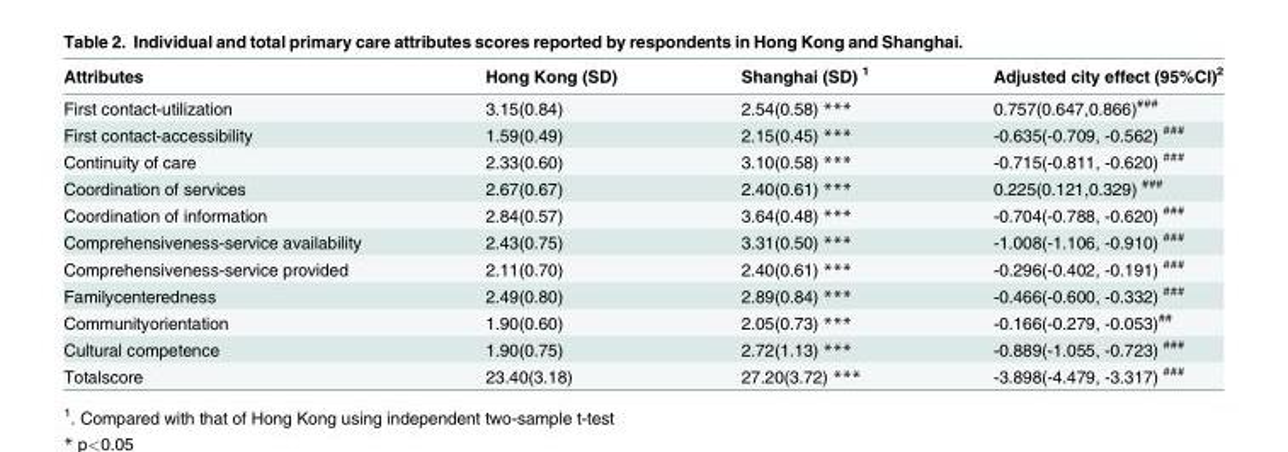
<table><thead><tr><td>Attributes</td><td>Hong Kong (SD)</td><td>Shanghai (SD) <sup>1</sup></td><td>Adjusted city effect (95%CI)<sup>2</sup></td></tr></thead><tbody><tr><td>First contact-utilization</td><td>3.15(0.84)</td><td>2.54(0.58) ***</td><td>0.757(0.647,0.866)<sup>###</sup></td></tr><tr><td>First contact-accessibility</td><td>1.59(0.49)</td><td>2.15(0.45) ***</td><td>-0.635(-0.709, -0.562) <sup>###</sup></td></tr><tr><td>Continuity of care</td><td>2.33(0.60)</td><td>3.10(0.58) ***</td><td>-0.715(-0.811, -0.620) <sup>###</sup></td></tr><tr><td>Coordination of services</td><td>2.67(0.67)</td><td>2.40(0.61) ***</td><td>0.225(0.121,0.329) <sup>###</sup></td></tr><tr><td>Coordination of information</td><td>2.84(0.57)</td><td>3.64(0.48) ***</td><td>-0.704(-0.788, -0.620) <sup>###</sup></td></tr><tr><td>Comprehensiveness-service availability</td><td>2.43(0.75)</td><td>3.31(0.50) ***</td><td>-1.008(-1.106, -0.910) <sup>###</sup></td></tr><tr><td>Comprehensiveness-service provided</td><td>2.11(0.70)</td><td>2.40(0.61) ***</td><td>-0.296(-0.402, -0.191) <sup>###</sup></td></tr><tr><td>Familycenteredness</td><td>2.49(0.80)</td><td>2.89(0.84) ***</td><td>-0.466(-0.600, -0.332) <sup>###</sup></td></tr><tr><td>Communityorientation</td><td>1.90(0.60)</td><td>2.05(0.73) ***</td><td>-0.166(-0.279, -0.053)<sup>##</sup></td></tr><tr><td>Cultural competence</td><td>1.90(0.75)</td><td>2.72(1.13) ***</td><td>-0.889(-1.055, -0.723) <sup>###</sup></td></tr><tr><td>Totalscore</td><td>23.40(3.18)</td><td>27.20(3.72) ***</td><td>-3.898(-4.479, -3.317) <sup>###</sup></td></tr></tbody></table>